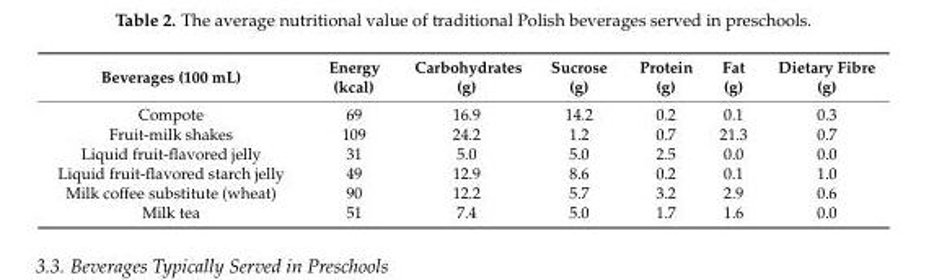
<table><thead><tr><td>Beverages (100 mL)</td><td>Energy (kcal)</td><td>Carbohydrates (g)</td><td>Sucrose (g)</td><td>Protein (g)</td><td>Fat (g)</td><td>Dietary Fibre (g)</td></tr></thead><tbody><tr><td>Compote</td><td>69</td><td>16.9</td><td>14.2</td><td>0.2</td><td>0.1</td><td>0.3</td></tr><tr><td>Fruit-milk shakes</td><td>109</td><td>24.2</td><td>1.2</td><td>0.7</td><td>21.3</td><td>0.7</td></tr><tr><td>Liquid fruit-flavored jelly</td><td>31</td><td>5.0</td><td>5.0</td><td>2.5</td><td>0.0</td><td>0.0</td></tr><tr><td>Liquid fruit-flavored starch jelly</td><td>49</td><td>12.9</td><td>8.6</td><td>0.2</td><td>0.1</td><td>1.0</td></tr><tr><td>Milk coffee substitute (wheat)</td><td>90</td><td>12.2</td><td>5.7</td><td>3.2</td><td>2.9</td><td>0.6</td></tr><tr><td>Milk tea</td><td>51</td><td>7.4</td><td>5.0</td><td>1.7</td><td>1.6</td><td>0.0</td></tr></tbody></table>